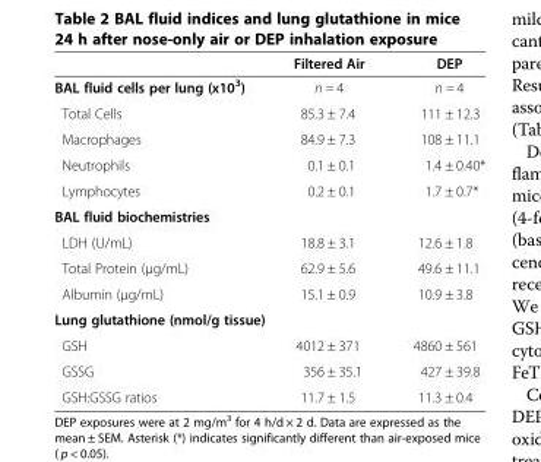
<table><thead><tr><td></td><td>Filtered Air</td><td>DEP</td></tr></thead><tbody><tr><td>BAL fluid cells per lung (x10<sup>3</sup>)</td><td>n = 4</td><td>n = 4</td></tr><tr><td>Total Cells</td><td>85.3 ± 7.4</td><td>111 ± 12.3</td></tr><tr><td>Macrophages</td><td>84.9 ± 7.3</td><td>108 ± 11.1</td></tr><tr><td>Neutrophils</td><td>0.1 ± 0.1</td><td>1.4 ± 0.40*</td></tr><tr><td>Lymphocytes</td><td>0.2 ± 0.1</td><td>1.7 ± 0.7*</td></tr><tr><td colspan="3">BAL fluid biochemistries</td></tr><tr><td>LDH (U/mL)</td><td>18.8 ± 3.1</td><td>12.6 ± 1.8</td></tr><tr><td>Total Protein (μg/mL)</td><td>62.9 ± 5.6</td><td>49.6 ± 11.1</td></tr><tr><td>Albumin (μg/mL)</td><td>15.1 ± 0.9</td><td>10.9 ± 3.8</td></tr><tr><td colspan="3">Lung glutathione (nmol/g tissue)</td></tr><tr><td>GSH</td><td>4012 ± 371</td><td>4860 ± 561</td></tr><tr><td>GSSG</td><td>356 ± 35.1</td><td>427 ± 39.8</td></tr><tr><td>GSH:GSSG ratios</td><td>11.7 ± 1.5</td><td>11.3 ± 0.4</td></tr></tbody></table>